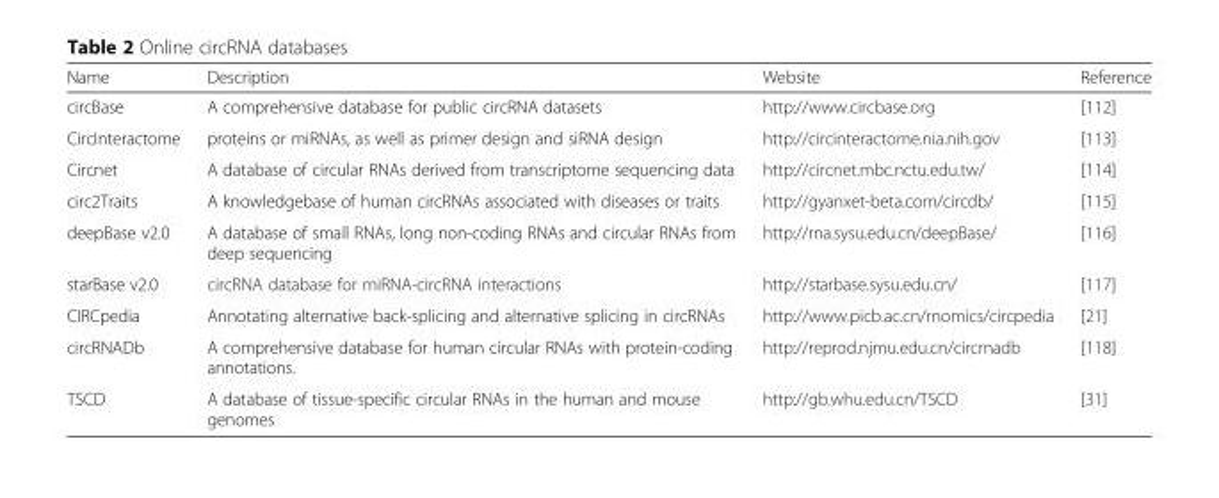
<table><thead><tr><td>Name</td><td>Description</td><td>Website</td><td>Reference</td></tr></thead><tbody><tr><td>circBase</td><td>A comprehensive database for public circRNA datasets</td><td>http://www.circbase.org</td><td>[112]</td></tr><tr><td>CircInteractome</td><td>proteins or miRNAs, as well as primer design and siRNA design</td><td>http://circinteractome.nia.nih.gov</td><td>[113]</td></tr><tr><td>Circnet</td><td>A database of circular RNAs derived from transcriptome sequencing data</td><td>http://circnet.mbc.nctu.edu.tw/</td><td>[114]</td></tr><tr><td>circ2Traits</td><td>A knowledgebase of human circRNAs associated with diseases or traits</td><td>http://gyanxet-beta.com/circdb/</td><td>[115]</td></tr><tr><td>deepBase v2.0</td><td>A database of small RNAs, long non-coding RNAs and circular RNAs from deep sequencing</td><td>http://rna.sysu.edu.cn/deepBase/</td><td>[116]</td></tr><tr><td>starBase v2.0</td><td>circRNA database for miRNA-circRNA interactions</td><td>http://starbase.sysu.edu.cn/</td><td>[117]</td></tr><tr><td>CIRCpedia</td><td>Annotating alternative back-splicing and alternative splicing in circRNAs</td><td>http://www.picb.ac.cn/rnomics/circpedia</td><td>[21]</td></tr><tr><td>circRNADb</td><td>A comprehensive database for human circular RNAs with protein-coding annotations.</td><td>http://reprod.njmu.edu.cn/circrnadb</td><td>[118]</td></tr><tr><td>TSCD</td><td>A database of tissue-specific circular RNAs in the human and mouse genomes</td><td>http://gb.whu.edu.cn/TSCD</td><td>[31]</td></tr></tbody></table>